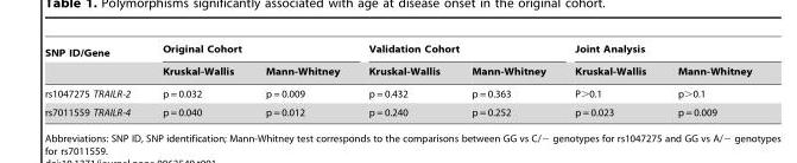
<table><thead><tr><td rowspan="2">SNP ID/Gene</td><td colspan="2">Original Cohort</td><td colspan="2">Validation Cohort</td><td colspan="2">Joint Analysis</td></tr><tr><td>Kruskal-Wallis</td><td>Mann-Whitney</td><td>Kruskal-Wallis</td><td>Mann-Whitney</td><td>Kruskal-Wallis</td><td>Mann-Whitney</td></tr></thead><tbody><tr><td>rs1047275 TRAILR-2</td><td>p = 0.032</td><td>p = 0.009</td><td>p = 0.432</td><td>p = 0.363</td><td>P&gt;0.1</td><td>p&gt;0.1</td></tr><tr><td>rs7011559 TRAILR-4</td><td>p = 0.040</td><td>p = 0.012</td><td>p = 0.240</td><td>p = 0.252</td><td>p = 0.023</td><td>p = 0.009</td></tr></tbody></table>